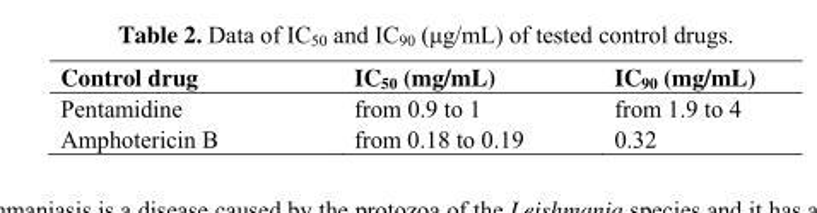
<table><thead><tr><td>Control drug</td><td>IC<sub>50</sub> (mg/mL)</td><td>IC<sub>90</sub> (mg/mL)</td></tr></thead><tbody><tr><td>Pentamidine</td><td>from 0.9 to 1</td><td>from 1.9 to 4</td></tr><tr><td>Amphotericin B</td><td>from 0.18 to 0.19</td><td>0.32</td></tr></tbody></table>